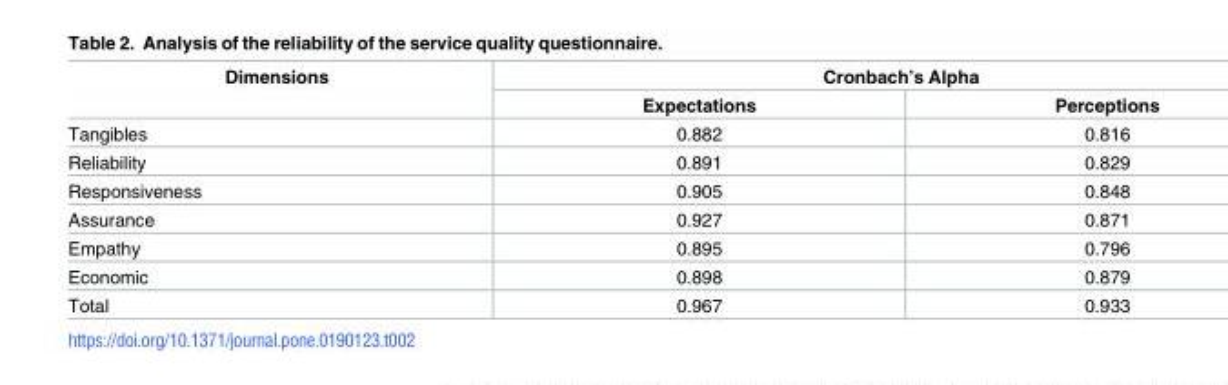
<table><thead><tr><td rowspan="2">Dimensions</td><td colspan="2">Cronbach’s Alpha</td></tr><tr><td>Expectations</td><td>Perceptions</td></tr></thead><tbody><tr><td>Tangibles</td><td>0.882</td><td>0.816</td></tr><tr><td>Reliability</td><td>0.891</td><td>0.829</td></tr><tr><td>Responsiveness</td><td>0.905</td><td>0.848</td></tr><tr><td>Assurance</td><td>0.927</td><td>0.871</td></tr><tr><td>Empathy</td><td>0.895</td><td>0.796</td></tr><tr><td>Economic</td><td>0.898</td><td>0.879</td></tr><tr><td>Total</td><td>0.967</td><td>0.933</td></tr></tbody></table>